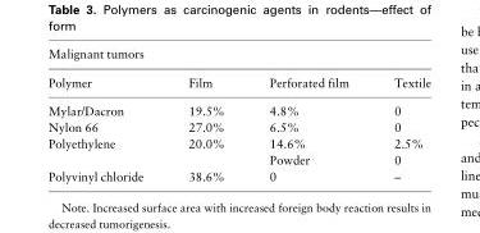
<table><thead><tr><td colspan="4">Malignant tumors</td></tr><tr><td>Polymer</td><td>Film</td><td>Perforated film</td><td>Textile</td></tr></thead><tbody><tr><td>Mylar/Dacron</td><td>19.5%</td><td>4.8%</td><td>0</td></tr><tr><td>Nylon 66</td><td>27.0%</td><td>6.5%</td><td>0</td></tr><tr><td rowspan="2">Polyethylene</td><td>20.0%</td><td>14.6%</td><td>2.5%</td></tr><tr><td></td><td>Powder</td><td>0</td></tr><tr><td>Polyvinyl chloride</td><td>38.6%</td><td>0</td><td>–</td></tr></tbody></table>